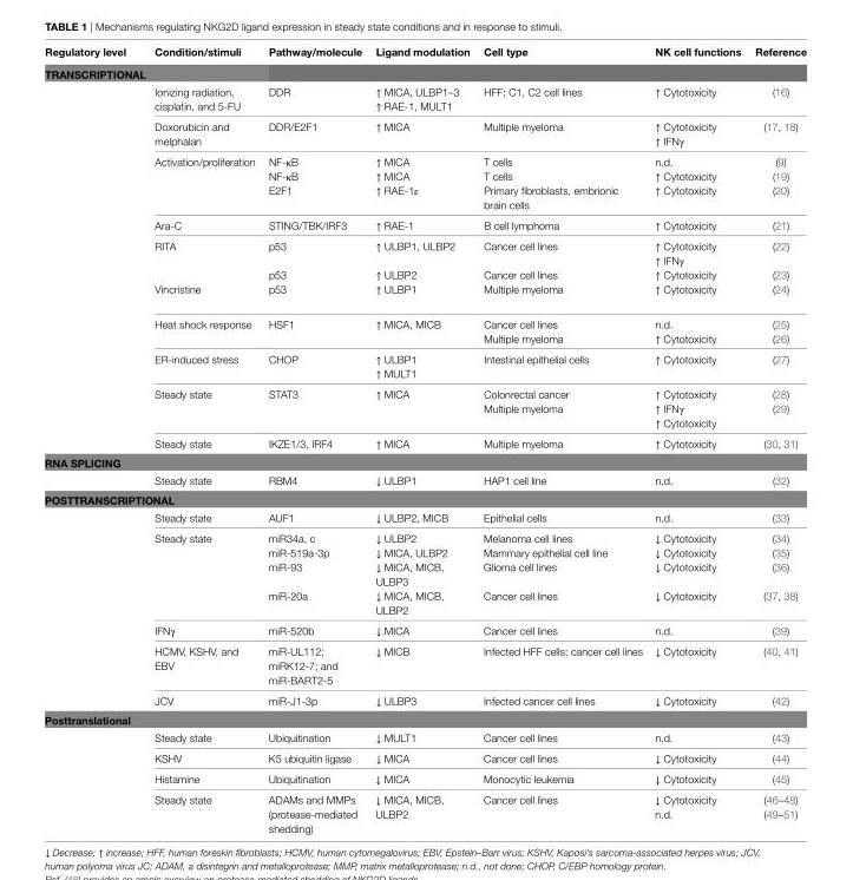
<table><thead><tr><td>Regulatory level</td><td>Condition/stimuli</td><td>Pathway/molecule</td><td>Ligand modulation</td><td>Cell type</td><td>NK cell functions</td><td>Reference</td></tr></thead><tbody><tr><td colspan="7">TRANSCRiPTiONAL</td></tr><tr><td rowspan="9"></td><td>Ionizing radiation, cisplatin, and 5-FU</td><td>DDR</td><td>↑ MICA, ULBP1–3 ↑ RAE-1, MULT1</td><td>HFF; C1, C2 cell lines</td><td>↑ Cytotoxicity</td><td>(16)</td></tr><tr><td>Doxorubicin and melphalan</td><td>DDR/E2F1</td><td>↑ MICA</td><td>Multiple myeloma</td><td>↑ Cytotoxicity ↑ IFNγ</td><td>(17, 18)</td></tr><tr><td>Activation/proliferation</td><td>NF-κB NF-κB E2F1</td><td>↑ MICA ↑ MICA ↑ RAE-1ε</td><td>T cells T cells Primary fibroblasts, embrionic brain cells</td><td>n.d. ↑ Cytotoxicity ↑ Cytotoxicity</td><td>(9) (19) (20)</td></tr><tr><td>Ara-C</td><td>STING/TBK/IRF3</td><td>↑ RAE-1</td><td>B cell lymphoma</td><td>↑ Cytotoxicity</td><td>(21)</td></tr><tr><td>RITA Vincristine</td><td>p53 p53 p53</td><td>↑ ULBP1, ULBP2 ↑ ULBP2 ↑ ULBP1</td><td>Cancer cell lines Cancer cell lines Multiple myeloma</td><td>↑ Cytotoxicity ↑ IFNγ ↑ Cytotoxicity ↑ Cytotoxicity</td><td>(22) (23) (24)</td></tr><tr><td>Heat shock response</td><td>HSF1</td><td>↑ MICA, MICB</td><td>Cancer cell lines Multiple myeloma</td><td>n.d. ↑ Cytotoxicity</td><td>(25) (26)</td></tr><tr><td>ER-induced stress</td><td>CHOP</td><td>↑ ULBP1 ↑ MULT1</td><td>Intestinal epithelial cells</td><td>↑ Cytotoxicity</td><td>(27)</td></tr><tr><td>Steady state</td><td>STAT3</td><td>↑ MICA</td><td>Colonrectal cancer Multiple myeloma</td><td>↑ Cytotoxicity ↑ IFNγ ↑ Cytotoxicity</td><td>(28) (29)</td></tr><tr><td>Steady state</td><td>IKZE1/3, IRF4</td><td>↑ MICA</td><td>Multiple myeloma</td><td>↑ Cytotoxicity</td><td>(30, 31)</td></tr><tr><td colspan="7">RNA SPLiCiNG</td></tr><tr><td></td><td>Steady state</td><td>RBM4</td><td>↓ ULBP1</td><td>HAP1 cell line</td><td>n.d.</td><td>(32)</td></tr><tr><td colspan="7">POSTTRANSCRiPTiONAL</td></tr><tr><td rowspan="5"></td><td>Steady state</td><td>AUF1</td><td>↓ ULBP2, MICB</td><td>Epithelial cells</td><td>n.d.</td><td>(33)</td></tr><tr><td>Steady state</td><td>miR34a, c miR-519a-3p miR-93 miR-20a</td><td>↓ ULBP2 ↓ MICA, ULBP2 ↓ MICA, MICB, ULBP3 ↓ MICA, MICB, ULBP2</td><td>Melanoma cell lines Mammary epithelial cell line Glioma cell lines Cancer cell lines</td><td>↓ Cytotoxicity ↓ Cytotoxicity ↓ Cytotoxicity ↓ Cytotoxicity</td><td>(34) (35) (36) (37, 38)</td></tr><tr><td>IFNγ</td><td>miR-520b</td><td>↓ MICA</td><td>Cancer cell lines</td><td>n.d.</td><td>(39)</td></tr><tr><td>HCMV, KSHV, and EBV</td><td>miR-UL112; miRK12-7; and miR-BART2-5</td><td>↓ MICB</td><td>Infected HFF cells; cancer cell lines</td><td>↓ Cytotoxicity</td><td>(40, 41)</td></tr><tr><td>JCV</td><td>miR-J1-3p</td><td>↓ ULBP3</td><td>Infected cancer cell lines</td><td>↓ Cytotoxicity</td><td>(42)</td></tr><tr><td colspan="7">Posttranslational</td></tr><tr><td rowspan="4"></td><td>Steady state</td><td>Ubiquitination</td><td>↓ MULT1</td><td>Cancer cell lines</td><td>n.d.</td><td>(43)</td></tr><tr><td>KSHV</td><td>K5 ubiquitin ligase</td><td>↓ MICA</td><td>Cancer cell lines</td><td>↓ Cytotoxicity</td><td>(44)</td></tr><tr><td>Histamine</td><td>Ubiquitination</td><td>↓ MICA</td><td>Monocytic leukemia</td><td>↓ Cytotoxicity</td><td>(45)</td></tr><tr><td>Steady state</td><td>ADAMs and MMPs (protease-mediated shedding)</td><td>↓ MICA, MICB, ULBP2</td><td>Cancer cell lines</td><td>↓ Cytotoxicity n.d.</td><td>(46–48) (49–51)</td></tr></tbody></table>